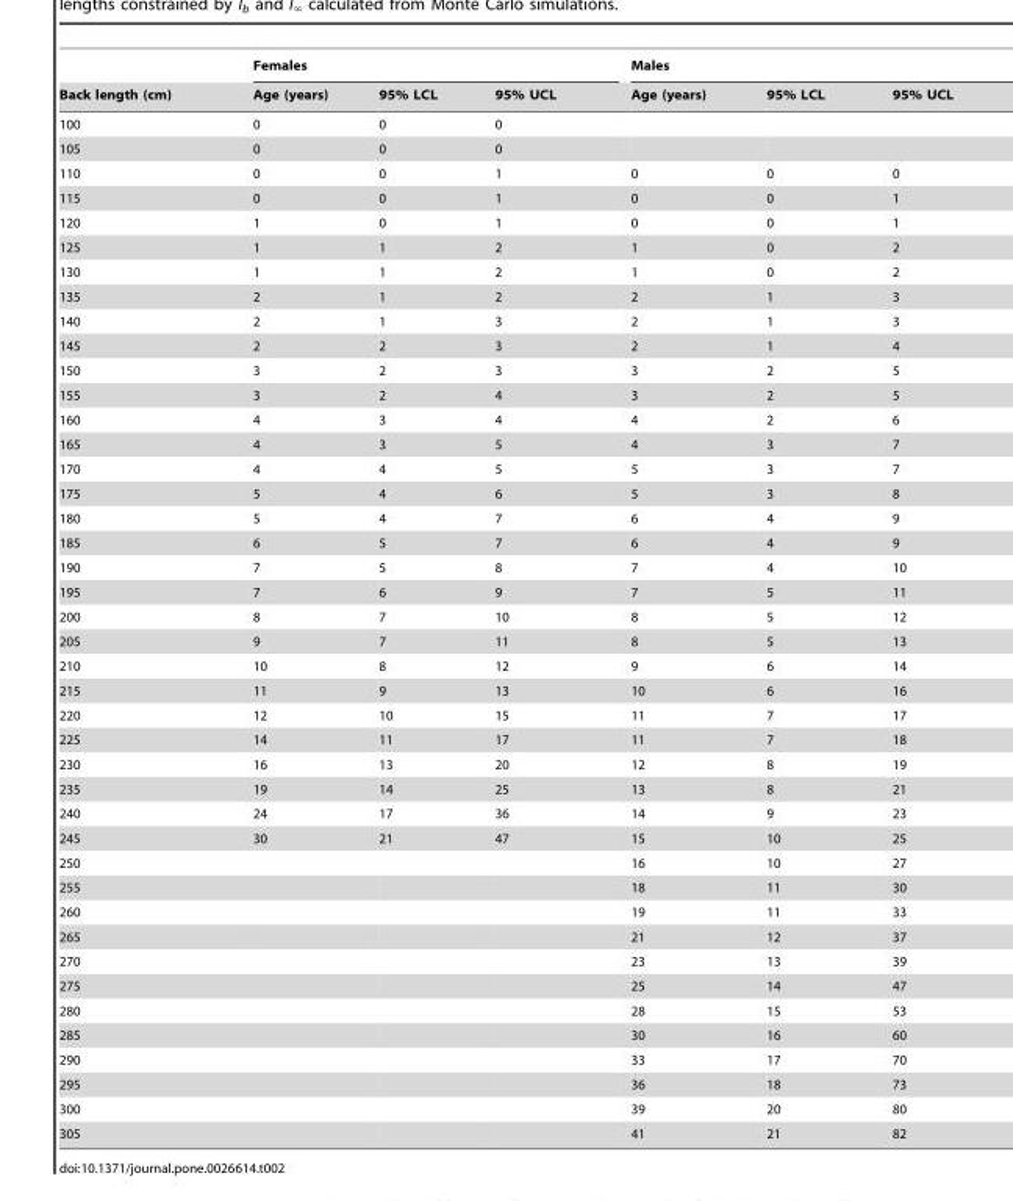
<table><thead><tr><td rowspan="2">Back length (cm)</td><td colspan="3">Females</td><td colspan="3">Males</td></tr><tr><td>Age (years)</td><td>95% LCL</td><td>95% UCL</td><td>Age (years)</td><td>95% LCL</td><td>95% UCL</td></tr></thead><tbody><tr><td>100</td><td>0</td><td>0</td><td>0</td><td></td><td></td><td></td></tr><tr><td>105</td><td>0</td><td>0</td><td>0</td><td></td><td></td><td></td></tr><tr><td>110</td><td>0</td><td>0</td><td>1</td><td>0</td><td>0</td><td>0</td></tr><tr><td>115</td><td>0</td><td>0</td><td>1</td><td>0</td><td>0</td><td>1</td></tr><tr><td>120</td><td>1</td><td>0</td><td>1</td><td>0</td><td>0</td><td>1</td></tr><tr><td>125</td><td>1</td><td>1</td><td>2</td><td>1</td><td>0</td><td>2</td></tr><tr><td>130</td><td>1</td><td>1</td><td>2</td><td>1</td><td>0</td><td>2</td></tr><tr><td>135</td><td>2</td><td>1</td><td>2</td><td>2</td><td>1</td><td>3</td></tr><tr><td>140</td><td>2</td><td>1</td><td>3</td><td>2</td><td>1</td><td>3</td></tr><tr><td>145</td><td>2</td><td>2</td><td>3</td><td>2</td><td>1</td><td>4</td></tr><tr><td>150</td><td>3</td><td>2</td><td>3</td><td>3</td><td>2</td><td>5</td></tr><tr><td>155</td><td>3</td><td>2</td><td>4</td><td>3</td><td>2</td><td>5</td></tr><tr><td>160</td><td>4</td><td>3</td><td>4</td><td>4</td><td>2</td><td>6</td></tr><tr><td>165</td><td>4</td><td>3</td><td>5</td><td>4</td><td>3</td><td>7</td></tr><tr><td>170</td><td>4</td><td>4</td><td>5</td><td>5</td><td>3</td><td>7</td></tr><tr><td>175</td><td>5</td><td>4</td><td>6</td><td>5</td><td>3</td><td>8</td></tr><tr><td>180</td><td>5</td><td>4</td><td>7</td><td>6</td><td>4</td><td>9</td></tr><tr><td>185</td><td>6</td><td>5</td><td>7</td><td>6</td><td>4</td><td>9</td></tr><tr><td>190</td><td>7</td><td>5</td><td>8</td><td>7</td><td>4</td><td>10</td></tr><tr><td>195</td><td>7</td><td>6</td><td>9</td><td>7</td><td>5</td><td>11</td></tr><tr><td>200</td><td>8</td><td>7</td><td>10</td><td>8</td><td>5</td><td>12</td></tr><tr><td>205</td><td>9</td><td>7</td><td>11</td><td>8</td><td>5</td><td>13</td></tr><tr><td>210</td><td>10</td><td>8</td><td>12</td><td>9</td><td>6</td><td>14</td></tr><tr><td>215</td><td>11</td><td>9</td><td>13</td><td>10</td><td>6</td><td>16</td></tr><tr><td>220</td><td>12</td><td>10</td><td>15</td><td>11</td><td>7</td><td>17</td></tr><tr><td>225</td><td>14</td><td>11</td><td>17</td><td>11</td><td>7</td><td>18</td></tr><tr><td>230</td><td>16</td><td>13</td><td>20</td><td>12</td><td>8</td><td>19</td></tr><tr><td>235</td><td>19</td><td>14</td><td>25</td><td>13</td><td>8</td><td>21</td></tr><tr><td>240</td><td>24</td><td>17</td><td>36</td><td>14</td><td>9</td><td>23</td></tr><tr><td>245</td><td>30</td><td>21</td><td>47</td><td>15</td><td>10</td><td>25</td></tr><tr><td>250</td><td></td><td></td><td></td><td>16</td><td>10</td><td>27</td></tr><tr><td>255</td><td></td><td></td><td></td><td>18</td><td>11</td><td>30</td></tr><tr><td>260</td><td></td><td></td><td></td><td>19</td><td>11</td><td>33</td></tr><tr><td>265</td><td></td><td></td><td></td><td>21</td><td>12</td><td>37</td></tr><tr><td>270</td><td></td><td></td><td></td><td>23</td><td>13</td><td>39</td></tr><tr><td>275</td><td></td><td></td><td></td><td>25</td><td>14</td><td>47</td></tr><tr><td>280</td><td></td><td></td><td></td><td>28</td><td>15</td><td>53</td></tr><tr><td>285</td><td></td><td></td><td></td><td>30</td><td>16</td><td>60</td></tr><tr><td>290</td><td></td><td></td><td></td><td>33</td><td>17</td><td>70</td></tr><tr><td>295</td><td></td><td></td><td></td><td>36</td><td>18</td><td>73</td></tr><tr><td>300</td><td></td><td></td><td></td><td>39</td><td>20</td><td>80</td></tr><tr><td>305</td><td></td><td></td><td></td><td>41</td><td>21</td><td>82</td></tr></tbody></table>